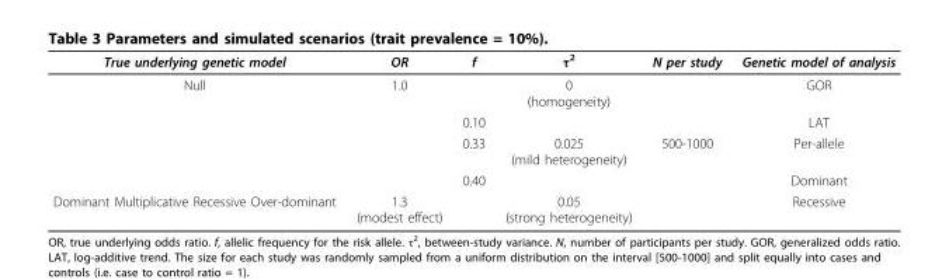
<table><thead><tr><td>True underlying genetic model</td><td>OR</td><td>f</td><td>τ<sup>2</sup></td><td>N per study</td><td>Genetic model of analysis</td></tr></thead><tbody><tr><td rowspan="4">Null</td><td>1.0</td><td></td><td>0 (homogeneity)</td><td></td><td>GOR</td></tr><tr><td></td><td>0.10</td><td></td><td></td><td>LAT</td></tr><tr><td></td><td>0.33</td><td>0.025 (mild heterogeneity)</td><td>500-1000</td><td>Per-allele</td></tr><tr><td></td><td>0.40</td><td></td><td></td><td>Dominant</td></tr><tr><td>Dominant Multiplicative Recessive Over-dominant</td><td>1.3 (modest effect)</td><td></td><td>0.05 (strong heterogeneity)</td><td></td><td>Recessive</td></tr></tbody></table>